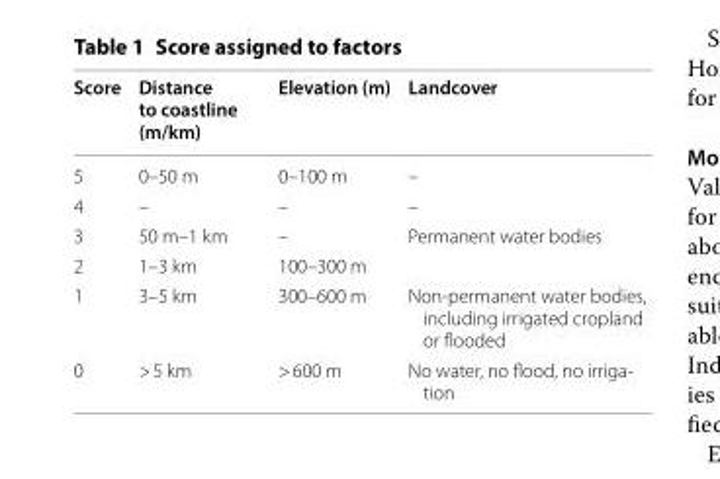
<table><thead><tr><td>Score</td><td>Distance to coastline (m/km)</td><td>Elevation (m)</td><td>Landcover</td></tr></thead><tbody><tr><td>5</td><td>0–50 m</td><td>0–100 m</td><td>–</td></tr><tr><td>4</td><td>–</td><td>–</td><td>–</td></tr><tr><td>3</td><td>50 m–1 km</td><td>–</td><td>Permanent water bodies</td></tr><tr><td>2</td><td>1–3 km</td><td>100–300 m</td><td></td></tr><tr><td>1</td><td>3–5 km</td><td>300–600 m</td><td>Non-permanent water bodies, including irrigated cropland or flooded</td></tr><tr><td>0</td><td>&gt; 5 km</td><td>&gt; 600 m</td><td>No water, no flood, no irriga- tion</td></tr></tbody></table>